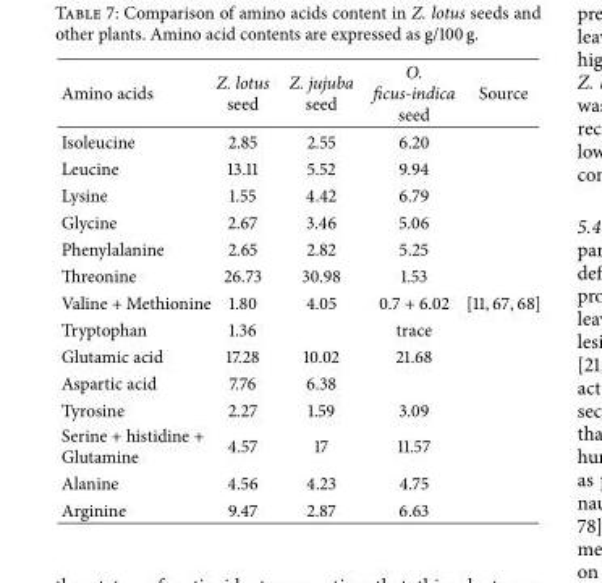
<table><thead><tr><td>Amino acids</td><td>Z. lotus seed</td><td>Z. jujuba seed</td><td>O. ficus-indica seed</td><td>Source</td></tr></thead><tbody><tr><td>Isoleucine</td><td>2.85</td><td>2.55</td><td>6.20</td><td></td></tr><tr><td>Leucine</td><td>13.11</td><td>5.52</td><td>9.94</td><td></td></tr><tr><td>Lysine</td><td>1.55</td><td>4.42</td><td>6.79</td><td></td></tr><tr><td>Glycine</td><td>2.67</td><td>3.46</td><td>5.06</td><td></td></tr><tr><td>Phenylalanine</td><td>2.65</td><td>2.82</td><td>5.25</td><td></td></tr><tr><td>Threonine</td><td>26.73</td><td>30.98</td><td>1.53</td><td></td></tr><tr><td>Valine + Methionine</td><td>1.80</td><td>4.05</td><td>0.7 + 6.02</td><td>[11, 67, 68]</td></tr><tr><td>Tryptophan</td><td>1.36</td><td></td><td>trace</td><td></td></tr><tr><td>Glutamic acid</td><td>17.28</td><td>10.02</td><td>21.68</td><td></td></tr><tr><td>Aspartic acid</td><td>7.76</td><td>6.38</td><td></td><td></td></tr><tr><td>Tyrosine</td><td>2.27</td><td>1.59</td><td>3.09</td><td></td></tr><tr><td>Serine + histidine + Glutamine</td><td>4.57</td><td>17</td><td>11.57</td><td></td></tr><tr><td>Alanine</td><td>4.56</td><td>4.23</td><td>4.75</td><td></td></tr><tr><td>Arginine</td><td>9.47</td><td>2.87</td><td>6.63</td><td></td></tr></tbody></table>